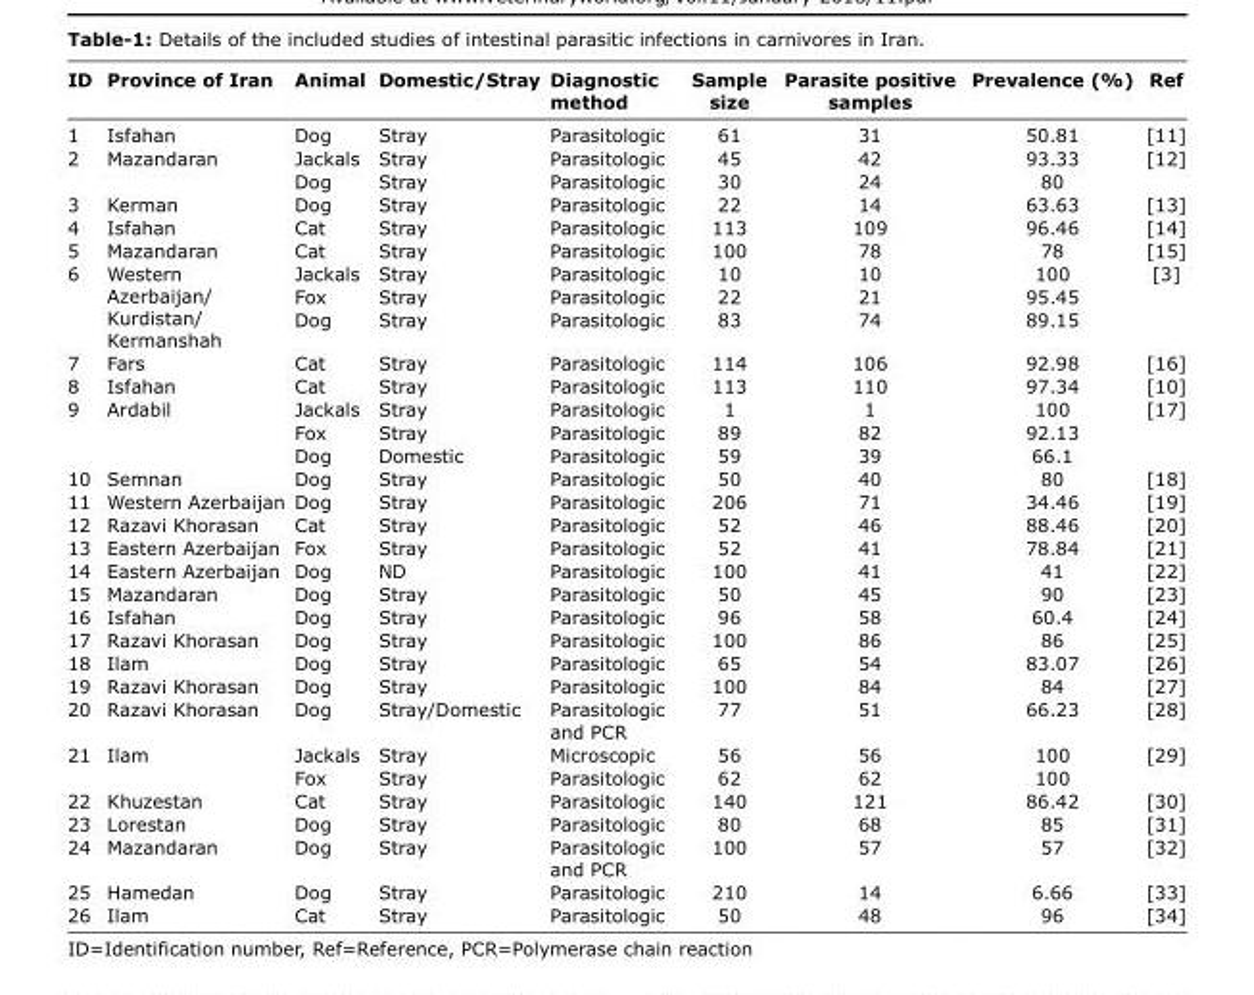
<table><thead><tr><td>ID</td><td>Province of Iran</td><td>Animal</td><td>Domestic/Stray</td><td>Diagnostic method</td><td>Sample size</td><td>Parasite positive samples</td><td>Prevalence (%)</td><td>Ref</td></tr></thead><tbody><tr><td>1</td><td>Isfahan</td><td>Dog</td><td>Stray</td><td>Parasitologic</td><td>61</td><td>31</td><td>50.81</td><td>[11]</td></tr><tr><td rowspan="2">2</td><td rowspan="2">Mazandaran</td><td>Jackals</td><td>Stray</td><td>Parasitologic</td><td>45</td><td>42</td><td>93.33</td><td>[12]</td></tr><tr><td>Dog</td><td>Stray</td><td>Parasitologic</td><td>30</td><td>24</td><td>80</td><td></td></tr><tr><td>3</td><td>Kerman</td><td>Dog</td><td>Stray</td><td>Parasitologic</td><td>22</td><td>14</td><td>63.63</td><td>[13]</td></tr><tr><td>4</td><td>Isfahan</td><td>Cat</td><td>Stray</td><td>Parasitologic</td><td>113</td><td>109</td><td>96.46</td><td>[14]</td></tr><tr><td>5</td><td>Mazandaran</td><td>Cat</td><td>Stray</td><td>Parasitologic</td><td>100</td><td>78</td><td>78</td><td>[15]</td></tr><tr><td rowspan="3">6</td><td rowspan="3">Western Azerbaijan/ Kurdistan/ Kermanshah</td><td>Jackals</td><td>Stray</td><td>Parasitologic</td><td>10</td><td>10</td><td>100</td><td>[3]</td></tr><tr><td>Fox</td><td>Stray</td><td>Parasitologic</td><td>22</td><td>21</td><td>95.45</td><td></td></tr><tr><td>Dog</td><td>Stray</td><td>Parasitologic</td><td>83</td><td>74</td><td>89.15</td><td></td></tr><tr><td>7</td><td>Fars</td><td>Cat</td><td>Stray</td><td>Parasitologic</td><td>114</td><td>106</td><td>92.98</td><td>[16]</td></tr><tr><td>8</td><td>Isfahan</td><td>Cat</td><td>Stray</td><td>Parasitologic</td><td>113</td><td>110</td><td>97.34</td><td>[10]</td></tr><tr><td rowspan="3">9</td><td rowspan="3">Ardabil</td><td>Jackals</td><td>Stray</td><td>Parasitologic</td><td>1</td><td>1</td><td>100</td><td>[17]</td></tr><tr><td>Fox</td><td>Stray</td><td>Parasitologic</td><td>89</td><td>82</td><td>92.13</td><td></td></tr><tr><td>Dog</td><td>Domestic</td><td>Parasitologic</td><td>59</td><td>39</td><td>66.1</td><td></td></tr><tr><td>10</td><td>Semnan</td><td>Dog</td><td>Stray</td><td>Parasitologic</td><td>50</td><td>40</td><td>80</td><td>[18]</td></tr><tr><td>11</td><td>Western Azerbaijan</td><td>Dog</td><td>Stray</td><td>Parasitologic</td><td>206</td><td>71</td><td>34.46</td><td>[19]</td></tr><tr><td>12</td><td>Razavi Khorasan</td><td>Cat</td><td>Stray</td><td>Parasitologic</td><td>52</td><td>46</td><td>88.46</td><td>[20]</td></tr><tr><td>13</td><td>Eastern Azerbaijan</td><td>Fox</td><td>Stray</td><td>Parasitologic</td><td>52</td><td>41</td><td>78.84</td><td>[21]</td></tr><tr><td>14</td><td>Eastern Azerbaijan</td><td>Dog</td><td>ND</td><td>Parasitologic</td><td>100</td><td>41</td><td>41</td><td>[22]</td></tr><tr><td>15</td><td>Mazandaran</td><td>Dog</td><td>Stray</td><td>Parasitologic</td><td>50</td><td>45</td><td>90</td><td>[23]</td></tr><tr><td>16</td><td>Isfahan</td><td>Dog</td><td>Stray</td><td>Parasitologic</td><td>96</td><td>58</td><td>60.4</td><td>[24]</td></tr><tr><td>17</td><td>Razavi Khorasan</td><td>Dog</td><td>Stray</td><td>Parasitologic</td><td>100</td><td>86</td><td>86</td><td>[25]</td></tr><tr><td>18</td><td>Ilam</td><td>Dog</td><td>Stray</td><td>Parasitologic</td><td>65</td><td>54</td><td>83.07</td><td>[26]</td></tr><tr><td>19</td><td>Razavi Khorasan</td><td>Dog</td><td>Stray</td><td>Parasitologic</td><td>100</td><td>84</td><td>84</td><td>[27]</td></tr><tr><td>20</td><td>Razavi Khorasan</td><td>Dog</td><td>Stray/Domestic</td><td>Parasitologic and PCR</td><td>77</td><td>51</td><td>66.23</td><td>[28]</td></tr><tr><td rowspan="2">21</td><td rowspan="2">Ilam</td><td>Jackals</td><td>Stray</td><td>Microscopic</td><td>56</td><td>56</td><td>100</td><td>[29]</td></tr><tr><td>Fox</td><td>Stray</td><td>Parasitologic</td><td>62</td><td>62</td><td>100</td><td></td></tr><tr><td>22</td><td>Khuzestan</td><td>Cat</td><td>Stray</td><td>Parasitologic</td><td>140</td><td>121</td><td>86.42</td><td>[30]</td></tr><tr><td>23</td><td>Lorestan</td><td>Dog</td><td>Stray</td><td>Parasitologic</td><td>80</td><td>68</td><td>85</td><td>[31]</td></tr><tr><td>24</td><td>Mazandaran</td><td>Dog</td><td>Stray</td><td>Parasitologic and PCR</td><td>100</td><td>57</td><td>57</td><td>[32]</td></tr><tr><td>25</td><td>Hamedan</td><td>Dog</td><td>Stray</td><td>Parasitologic</td><td>210</td><td>14</td><td>6.66</td><td>[33]</td></tr><tr><td>26</td><td>Ilam</td><td>Cat</td><td>Stray</td><td>Parasitologic</td><td>50</td><td>48</td><td>96</td><td>[34]</td></tr></tbody></table>